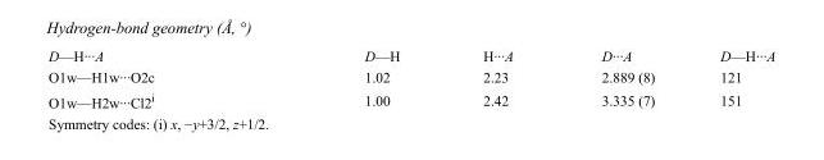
<table><tbody><tr><td>D—H···A</td><td>D—H</td><td>H···A</td><td>D···A</td><td>D—H···A</td></tr><tr><td>O1w—H1w···O2c</td><td>1.02</td><td>2.23</td><td>2.889 (8)</td><td>121</td></tr><tr><td>O1w—H2w···Cl2<sup>i</sup></td><td>1.00</td><td>2.42</td><td>3.335 (7)</td><td>151</td></tr></tbody></table>